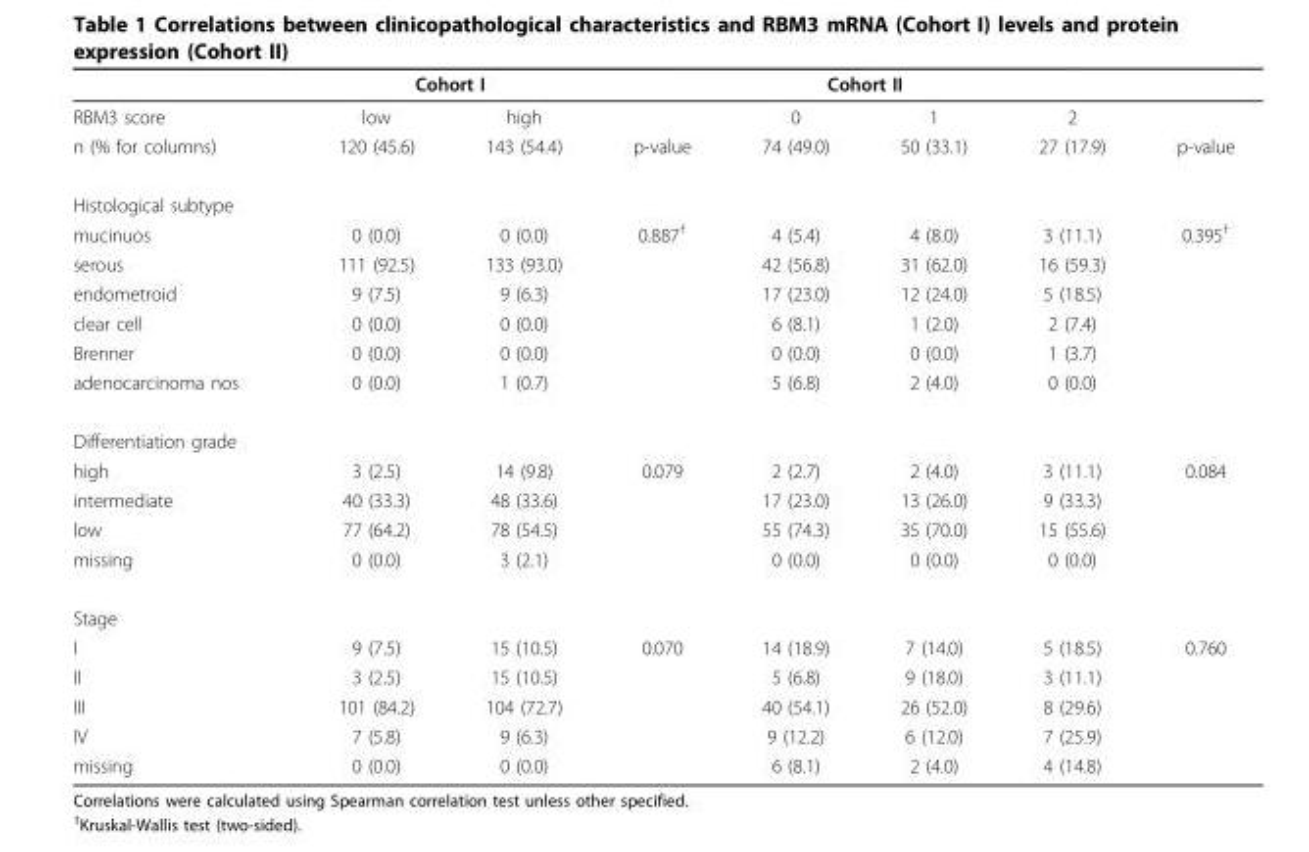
<table><thead><tr><td rowspan="2">RBM3 score</td><td colspan="2">Cohort I</td><td rowspan="2"></td><td colspan="2">Cohort II</td><td rowspan="2">2</td><td rowspan="2"></td></tr><tr><td>low</td><td>high</td><td>0</td><td>1</td></tr></thead><tbody><tr><td>n (% for columns)</td><td>120 (45.6)</td><td>143 (54.4)</td><td>p-value</td><td>74 (49.0)</td><td>50 (33.1)</td><td>27 (17.9)</td><td>p-value</td></tr><tr><td colspan="8">Histological subtype</td></tr><tr><td>mucinuos</td><td>0 (0.0)</td><td>0 (0.0)</td><td>0.887<sup>†</sup></td><td>4 (5.4)</td><td>4 (8.0)</td><td>3 (11.1)</td><td>0.395<sup>†</sup></td></tr><tr><td>serous</td><td>111 (92.5)</td><td>133 (93.0)</td><td></td><td>42 (56.8)</td><td>31 (62.0)</td><td>16 (59.3)</td><td></td></tr><tr><td>endometroid</td><td>9 (7.5)</td><td>9 (6.3)</td><td></td><td>17 (23.0)</td><td>12 (24.0)</td><td>5 (18.5)</td><td></td></tr><tr><td>clear cell</td><td>0 (0.0)</td><td>0 (0.0)</td><td></td><td>6 (8.1)</td><td>1 (2.0)</td><td>2 (7.4)</td><td></td></tr><tr><td>Brenner</td><td>0 (0.0)</td><td>0 (0.0)</td><td></td><td>0 (0.0)</td><td>0 (0.0)</td><td>1 (3.7)</td><td></td></tr><tr><td>adenocarcinoma nos</td><td>0 (0.0)</td><td>1 (0.7)</td><td></td><td>5 (6.8)</td><td>2 (4.0)</td><td>0 (0.0)</td><td></td></tr><tr><td colspan="8">Differentiation grade</td></tr><tr><td>high</td><td>3 (2.5)</td><td>14 (9.8)</td><td>0.079</td><td>2 (2.7)</td><td>2 (4.0)</td><td>3 (11.1)</td><td>0.084</td></tr><tr><td>intermediate</td><td>40 (33.3)</td><td>48 (33.6)</td><td></td><td>17 (23.0)</td><td>13 (26.0)</td><td>9 (33.3)</td><td></td></tr><tr><td>low</td><td>77 (64.2)</td><td>78 (54.5)</td><td></td><td>55 (74.3)</td><td>35 (70.0)</td><td>15 (55.6)</td><td></td></tr><tr><td>missing</td><td>0 (0.0)</td><td>3 (2.1)</td><td></td><td>0 (0.0)</td><td>0 (0.0)</td><td>0 (0.0)</td><td></td></tr><tr><td colspan="8">Stage</td></tr><tr><td>I</td><td>9 (7.5)</td><td>15 (10.5)</td><td>0.070</td><td>14 (18.9)</td><td>7 (14.0)</td><td>5 (18.5)</td><td>0.760</td></tr><tr><td>II</td><td>3 (2.5)</td><td>15 (10.5)</td><td></td><td>5 (6.8)</td><td>9 (18.0)</td><td>3 (11.1)</td><td></td></tr><tr><td>III</td><td>101 (84.2)</td><td>104 (72.7)</td><td></td><td>40 (54.1)</td><td>26 (52.0)</td><td>8 (29.6)</td><td></td></tr><tr><td>IV</td><td>7 (5.8)</td><td>9 (6.3)</td><td></td><td>9 (12.2)</td><td>6 (12.0)</td><td>7 (25.9)</td><td></td></tr><tr><td>missing</td><td>0 (0.0)</td><td>0 (0.0)</td><td></td><td>6 (8.1)</td><td>2 (4.0)</td><td>4 (14.8)</td><td></td></tr></tbody></table>